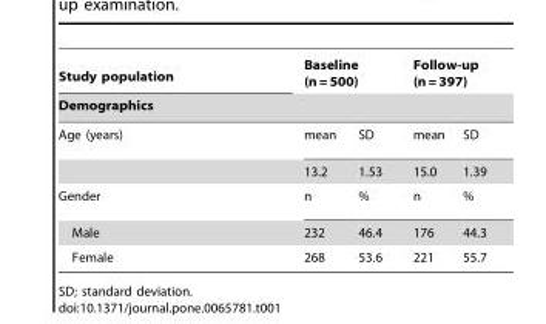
<table><thead><tr><td rowspan="2">Study population Demographics</td><td colspan="2">Baseline (n = 500)</td><td colspan="2">Follow-up (n = 397)</td></tr><tr><td></td><td></td><td></td><td></td></tr></thead><tbody><tr><td rowspan="2">Age (years)</td><td>mean</td><td>SD</td><td>mean</td><td>SD</td></tr><tr><td>13.2</td><td>1.53</td><td>15.0</td><td>1.39</td></tr><tr><td>Gender</td><td>n</td><td>%</td><td>n</td><td>%</td></tr><tr><td>Male</td><td>232</td><td>46.4</td><td>176</td><td>44.3</td></tr><tr><td>Female</td><td>268</td><td>53.6</td><td>221</td><td>55.7</td></tr></tbody></table>